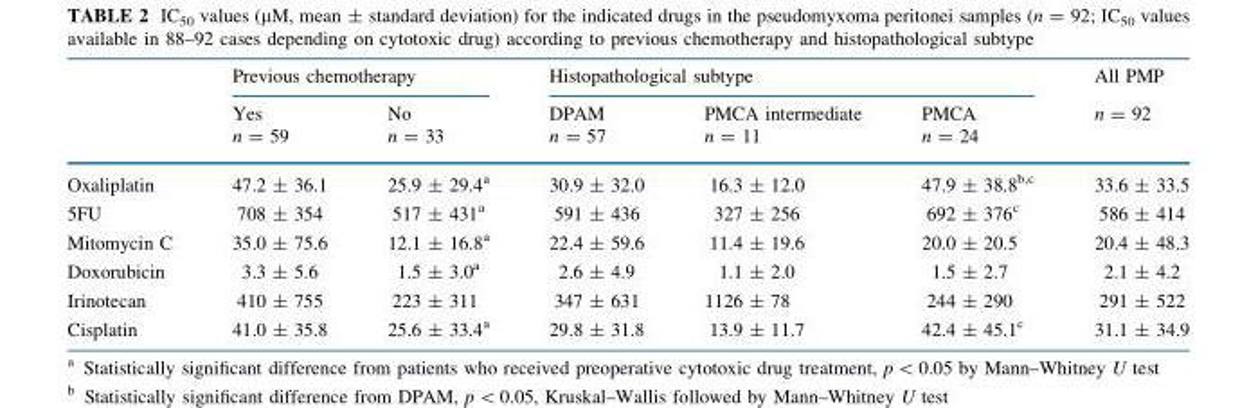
<table><thead><tr><td rowspan="2"></td><td colspan="2">Previous chemotherapy</td><td colspan="3">Histopathological subtype</td><td rowspan="2">All PMP n = 92</td></tr><tr><td>Yes n = 59</td><td>No n = 33</td><td>DPAM n = 57</td><td>PMCA intermediate n = 11</td><td>PMCA n = 24</td></tr></thead><tbody><tr><td>Oxaliplatin</td><td>47.2 ± 36.1</td><td>25.9 ± 29.4<sup>a</sup></td><td>30.9 ± 32.0</td><td>16.3 ± 12.0</td><td>47.9 ± 38.8<sup>b,c</sup></td><td>33.6 ± 33.5</td></tr><tr><td>5FU</td><td>708 ± 354</td><td>517 ± 431<sup>a</sup></td><td>591 ± 436</td><td>327 ± 256</td><td>692 ± 376<sup>c</sup></td><td>586 ± 414</td></tr><tr><td>Mitomycin C</td><td>35.0 ± 75.6</td><td>12.1 ± 16.8<sup>a</sup></td><td>22.4 ± 59.6</td><td>11.4 ± 19.6</td><td>20.0 ± 20.5</td><td>20.4 ± 48.3</td></tr><tr><td>Doxorubicin</td><td>3.3 ± 5.6</td><td>1.5 ± 3.0<sup>a</sup></td><td>2.6 ± 4.9</td><td>1.1 ± 2.0</td><td>1.5 ± 2.7</td><td>2.1 ± 4.2</td></tr><tr><td>Irinotecan</td><td>410 ± 755</td><td>223 ± 311</td><td>347 ± 631</td><td>1126 ± 78</td><td>244 ± 290</td><td>291 ± 522</td></tr><tr><td>Cisplatin</td><td>41.0 ± 35.8</td><td>25.6 ± 33.4<sup>a</sup></td><td>29.8 ± 31.8</td><td>13.9 ± 11.7</td><td>42.4 ± 45.1<sup>c</sup></td><td>31.1 ± 34.9</td></tr></tbody></table>